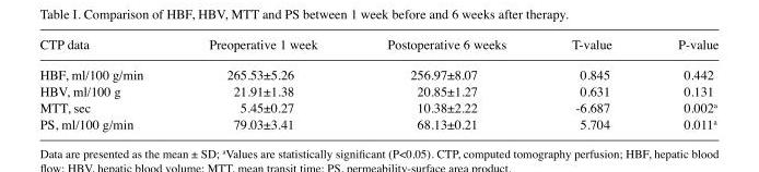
<table><thead><tr><td>CTP data</td><td>Preoperative 1 week</td><td>Postoperative 6 weeks</td><td>T-value</td><td>P-value</td></tr></thead><tbody><tr><td>HBF, ml/100 g/min</td><td>265.53±5.26</td><td>256.97±8.07</td><td>0.845</td><td>0.442</td></tr><tr><td>HBV, ml/100 g</td><td>21.91±1.38</td><td>20.85±1.27</td><td>0.631</td><td>0.131</td></tr><tr><td>MTT, sec</td><td>5.45±0.27</td><td>10.38±2.22</td><td>-6.687</td><td>0.002<sup>a</sup></td></tr><tr><td>PS, ml/100 g/min</td><td>79.03±3.41</td><td>68.13±0.21</td><td>5.704</td><td>0.011<sup>a</sup></td></tr></tbody></table>